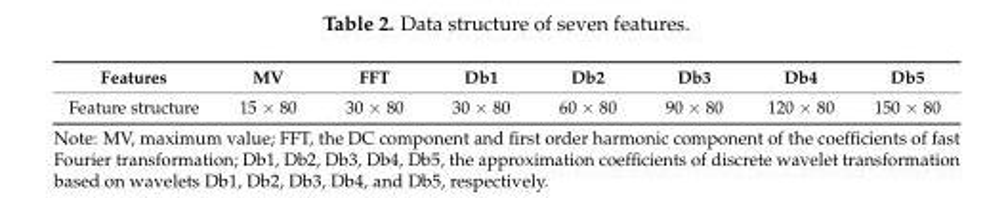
<table><thead><tr><td>Features</td><td>MV</td><td>FFT</td><td>Db1</td><td>Db2</td><td>Db3</td><td>Db4</td><td>Db5</td></tr></thead><tbody><tr><td>Feature structure</td><td>15 × 80</td><td>30 × 80</td><td>30 × 80</td><td>60 × 80</td><td>90 × 80</td><td>120 × 80</td><td>150 × 80</td></tr></tbody></table>